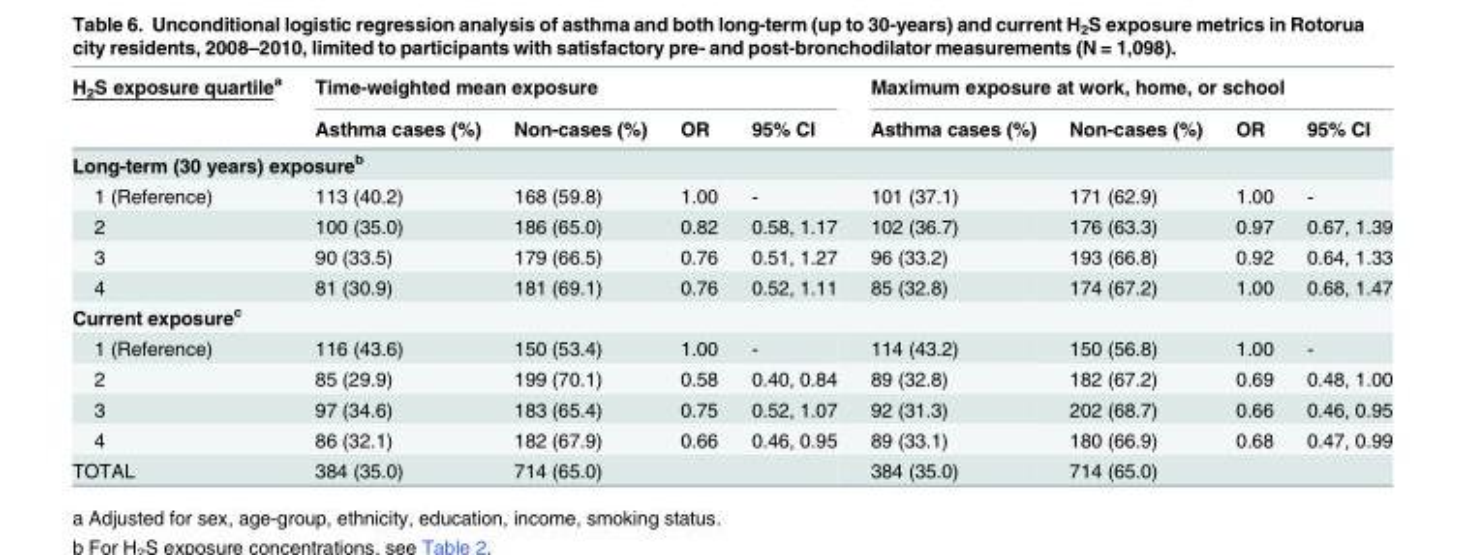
<table><thead><tr><td rowspan="2">H<sub>2</sub>S exposure quartile<sup>a</sup></td><td colspan="4">Time-weighted mean exposure</td><td colspan="4">Maximum exposure at work, home, or school</td></tr><tr><td>Asthma cases (%)</td><td>Non-cases (%)</td><td>OR</td><td>95% CI</td><td>Asthma cases (%)</td><td>Non-cases (%)</td><td>OR</td><td>95% CI</td></tr></thead><tbody><tr><td colspan="9">Long-term (30 years) exposure<sup>b</sup></td></tr><tr><td>1 (Reference)</td><td>113 (40.2)</td><td>168 (59.8)</td><td>1.00</td><td>-</td><td>101 (37.1)</td><td>171 (62.9)</td><td>1.00</td><td>-</td></tr><tr><td>2</td><td>100 (35.0)</td><td>186 (65.0)</td><td>0.82</td><td>0.58, 1.17</td><td>102 (36.7)</td><td>176 (63.3)</td><td>0.97</td><td>0.67, 1.39</td></tr><tr><td>3</td><td>90 (33.5)</td><td>179 (66.5)</td><td>0.76</td><td>0.51, 1.27</td><td>96 (33.2)</td><td>193 (66.8)</td><td>0.92</td><td>0.64, 1.33</td></tr><tr><td>4</td><td>81 (30.9)</td><td>181 (69.1)</td><td>0.76</td><td>0.52, 1.11</td><td>85 (32.8)</td><td>174 (67.2)</td><td>1.00</td><td>0.68, 1.47</td></tr><tr><td colspan="9">Current exposure<sup>c</sup></td></tr><tr><td>1 (Reference)</td><td>116 (43.6)</td><td>150 (53.4)</td><td>1.00</td><td>-</td><td>114 (43.2)</td><td>150 (56.8)</td><td>1.00</td><td>-</td></tr><tr><td>2</td><td>85 (29.9)</td><td>199 (70.1)</td><td>0.58</td><td>0.40, 0.84</td><td>89 (32.8)</td><td>182 (67.2)</td><td>0.69</td><td>0.48, 1.00</td></tr><tr><td>3</td><td>97 (34.6)</td><td>183 (65.4)</td><td>0.75</td><td>0.52, 1.07</td><td>92 (31.3)</td><td>202 (68.7)</td><td>0.66</td><td>0.46, 0.95</td></tr><tr><td>4</td><td>86 (32.1)</td><td>182 (67.9)</td><td>0.66</td><td>0.46, 0.95</td><td>89 (33.1)</td><td>180 (66.9)</td><td>0.68</td><td>0.47, 0.99</td></tr><tr><td>TOTAL</td><td>384 (35.0)</td><td>714 (65.0)</td><td></td><td></td><td>384 (35.0)</td><td>714 (65.0)</td><td></td><td></td></tr></tbody></table>